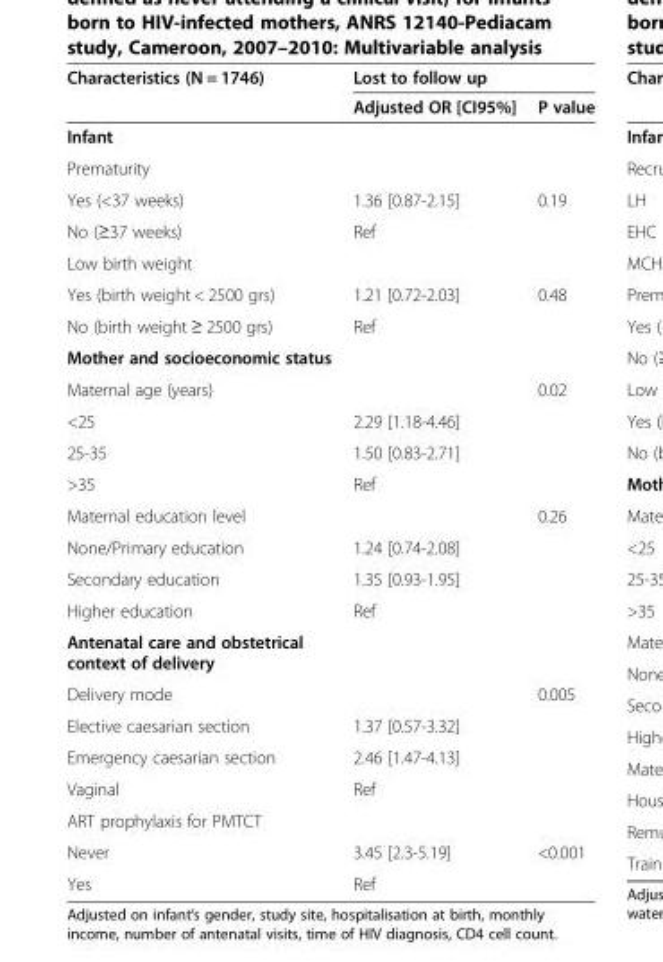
<table><thead><tr><td rowspan="2">Characteristics (N = 1746)</td><td colspan="2">Lost to follow up</td></tr><tr><td>Adjusted OR [CI95%]</td><td>P value</td></tr></thead><tbody><tr><td colspan="3">Infant</td></tr><tr><td colspan="3">Prematurity</td></tr><tr><td>Yes (&lt;37 weeks)</td><td>1.36 [0.87-2.15]</td><td>0.19</td></tr><tr><td>No (≥37 weeks)</td><td>Ref</td><td></td></tr><tr><td colspan="3">Low birth weight</td></tr><tr><td>Yes (birth weight &lt; 2500 grs)</td><td>1.21 [0.72-2.03]</td><td>0.48</td></tr><tr><td>No (birth weight ≥ 2500 grs)</td><td>Ref</td><td></td></tr><tr><td colspan="3">Mother and socioeconomic status</td></tr><tr><td>Maternal age (years)</td><td></td><td>0.02</td></tr><tr><td>&lt;25</td><td>2.29 [1.18-4.46]</td><td></td></tr><tr><td>25-35</td><td>1.50 [0.83-2.71]</td><td></td></tr><tr><td>&gt;35</td><td>Ref</td><td></td></tr><tr><td>Maternal education level</td><td></td><td>0.26</td></tr><tr><td>None/Primary education</td><td>1.24 [0.74-2.08]</td><td></td></tr><tr><td>Secondary education</td><td>1.35 [0.93-1.95]</td><td></td></tr><tr><td>Higher education</td><td>Ref</td><td></td></tr><tr><td colspan="3">Antenatal care and obstetrical context of delivery</td></tr><tr><td>Delivery mode</td><td></td><td>0.005</td></tr><tr><td>Elective caesarian section</td><td>1.37 [0.57-3.32]</td><td></td></tr><tr><td>Emergency caesarian section</td><td>2.46 [1.47-4.13]</td><td></td></tr><tr><td>Vaginal</td><td>Ref</td><td></td></tr><tr><td colspan="3">ART prophylaxis for PMTCT</td></tr><tr><td>Never</td><td>3.45 [2.3-5.19]</td><td>&lt;0.001</td></tr><tr><td>Yes</td><td>Ref</td><td></td></tr></tbody></table>